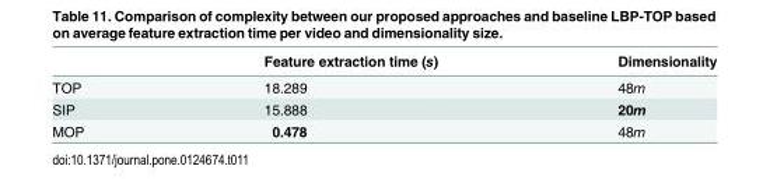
<table><thead><tr><td></td><td>Feature extraction time (s)</td><td>Dimensionality</td></tr></thead><tbody><tr><td>TOP</td><td>18.289</td><td>48m</td></tr><tr><td>SIP</td><td>15.888</td><td>20m</td></tr><tr><td>MOP</td><td>0.478</td><td>48m</td></tr></tbody></table>